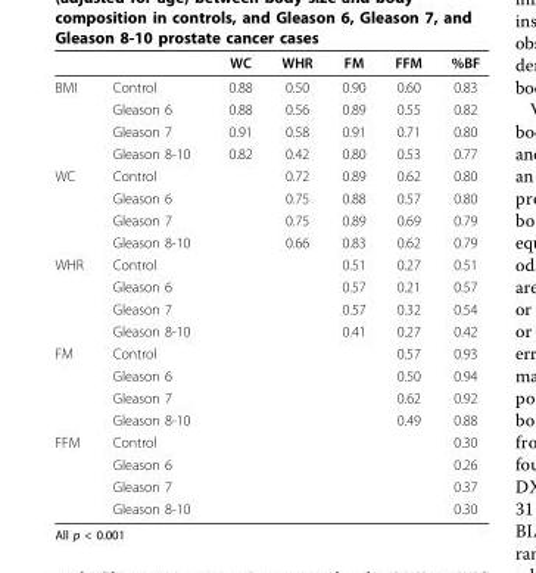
<table><thead><tr><td></td><td></td><td>WC</td><td>WHR</td><td>FM</td><td>FFM</td><td>%BF</td></tr></thead><tbody><tr><td rowspan="4">BMI</td><td>Control</td><td>0.88</td><td>0.50</td><td>0.90</td><td>0.60</td><td>0.83</td></tr><tr><td>Gleason 6</td><td>0.88</td><td>0.56</td><td>0.89</td><td>0.55</td><td>0.82</td></tr><tr><td>Gleason 7</td><td>0.91</td><td>0.58</td><td>0.91</td><td>0.71</td><td>0.80</td></tr><tr><td>Gleason 8-10</td><td>0.82</td><td>0.42</td><td>0.80</td><td>0.53</td><td>0.77</td></tr><tr><td rowspan="4">WC</td><td>Control</td><td></td><td>0.72</td><td>0.89</td><td>0.62</td><td>0.80</td></tr><tr><td>Gleason 6</td><td></td><td>0.75</td><td>0.88</td><td>0.57</td><td>0.80</td></tr><tr><td>Gleason 7</td><td></td><td>0.75</td><td>0.89</td><td>0.69</td><td>0.79</td></tr><tr><td>Gleason 8-10</td><td></td><td>0.66</td><td>0.83</td><td>0.62</td><td>0.79</td></tr><tr><td rowspan="4">WHR</td><td>Control</td><td></td><td></td><td>0.51</td><td>0.27</td><td>0.51</td></tr><tr><td>Gleason 6</td><td></td><td></td><td>0.57</td><td>0.21</td><td>0.57</td></tr><tr><td>Gleason 7</td><td></td><td></td><td>0.57</td><td>0.32</td><td>0.54</td></tr><tr><td>Gleason 8-10</td><td></td><td></td><td>0.41</td><td>0.27</td><td>0.42</td></tr><tr><td rowspan="4">FM</td><td>Control</td><td></td><td></td><td></td><td>0.57</td><td>0.93</td></tr><tr><td>Gleason 6</td><td></td><td></td><td></td><td>0.50</td><td>0.94</td></tr><tr><td>Gleason 7</td><td></td><td></td><td></td><td>0.62</td><td>0.92</td></tr><tr><td>Gleason 8-10</td><td></td><td></td><td></td><td>0.49</td><td>0.88</td></tr><tr><td rowspan="4">FFM</td><td>Control</td><td></td><td></td><td></td><td></td><td>0.30</td></tr><tr><td>Gleason 6</td><td></td><td></td><td></td><td></td><td>0.26</td></tr><tr><td>Gleason 7</td><td></td><td></td><td></td><td></td><td>0.37</td></tr><tr><td>Gleason 8-10</td><td></td><td></td><td></td><td></td><td>0.30</td></tr></tbody></table>